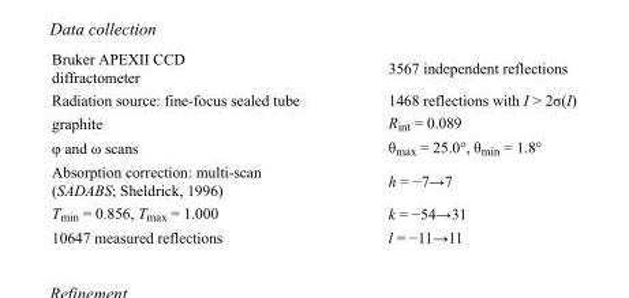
<table><tbody><tr><td>Bruker APEXII CCD diffractometer</td><td>3567 independent reflections</td></tr><tr><td>Radiation source: fine-focus sealed tube</td><td>1468 reflections with I &gt; 2σ(I)</td></tr><tr><td>graphite</td><td>R<sub>int</sub> = 0.089</td></tr><tr><td>φ and ω scans</td><td>θ<sub>max</sub> = 25.0°, θ<sub>min</sub> = 1.8°</td></tr><tr><td>Absorption correction: multi-scan (SADABS; Sheldrick, 1996)</td><td>h = −7→7</td></tr><tr><td>T<sub>min</sub> = 0.856, T<sub>max</sub> = 1.000</td><td>k = −54→31</td></tr><tr><td>10647 measured reflections</td><td>l = −11→11</td></tr></tbody></table>